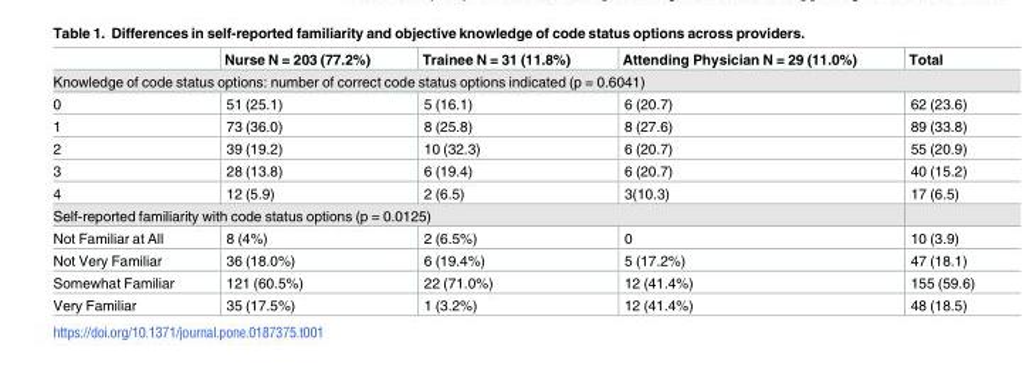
<table><thead><tr><td></td><td>Nurse N = 203 (77.2%)</td><td>Trainee N = 31 (11.8%)</td><td>Attending Physician N = 29 (11.0%)</td><td>Total</td></tr></thead><tbody><tr><td colspan="5">Knowledge of code status options: number of correct code status options indicated (p = 0.6041)</td></tr><tr><td>0</td><td>51 (25.1)</td><td>5 (16.1)</td><td>6 (20.7)</td><td>62 (23.6)</td></tr><tr><td>1</td><td>73 (36.0)</td><td>8 (25.8)</td><td>8 (27.6)</td><td>89 (33.8)</td></tr><tr><td>2</td><td>39 (19.2)</td><td>10 (32.3)</td><td>6 (20.7)</td><td>55 (20.9)</td></tr><tr><td>3</td><td>28 (13.8)</td><td>6 (19.4)</td><td>6 (20.7)</td><td>40 (15.2)</td></tr><tr><td>4</td><td>12 (5.9)</td><td>2 (6.5)</td><td>3(10.3)</td><td>17 (6.5)</td></tr><tr><td colspan="5">Self-reported familiarity with code status options (p = 0.0125)</td></tr><tr><td>Not Familiar at All</td><td>8 (4%)</td><td>2 (6.5%)</td><td>0</td><td>10 (3.9)</td></tr><tr><td>Not Very Familiar</td><td>36 (18.0%)</td><td>6 (19.4%)</td><td>5 (17.2%)</td><td>47 (18.1)</td></tr><tr><td>Somewhat Familiar</td><td>121 (60.5%)</td><td>22 (71.0%)</td><td>12 (41.4%)</td><td>155 (59.6)</td></tr><tr><td>Very Familiar</td><td>35 (17.5%)</td><td>1 (3.2%)</td><td>12 (41.4%)</td><td>48 (18.5)</td></tr></tbody></table>